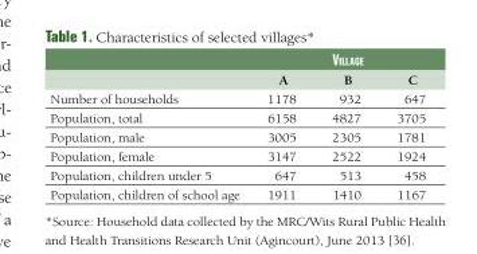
<table><thead><tr><td></td><td></td><td>Village</td><td></td></tr></thead><tbody><tr><td></td><td>A</td><td>B</td><td>C</td></tr><tr><td>Number of households</td><td>1178</td><td>932</td><td>647</td></tr><tr><td>Population, total</td><td>6158</td><td>4827</td><td>3705</td></tr><tr><td>Population, male</td><td>3005</td><td>2305</td><td>1781</td></tr><tr><td>Population, female</td><td>3147</td><td>2522</td><td>1924</td></tr><tr><td>Population, children under 5</td><td>647</td><td>513</td><td>458</td></tr><tr><td>Population, children of school age</td><td>1911</td><td>1410</td><td>1167</td></tr></tbody></table>